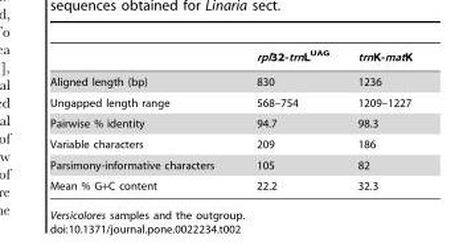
<table><thead><tr><td></td><td>rpl32-trnL<sup>UAG</sup></td><td>trnK-matK</td></tr></thead><tbody><tr><td>Aligned length (bp)</td><td>830</td><td>1236</td></tr><tr><td>Ungapped length range</td><td>568–754</td><td>1209–1227</td></tr><tr><td>Pairwise % identity</td><td>94.7</td><td>98.3</td></tr><tr><td>Variable characters</td><td>209</td><td>186</td></tr><tr><td>Parsimony-informative characters</td><td>105</td><td>82</td></tr><tr><td>Mean % G+C content</td><td>22.2</td><td>32.3</td></tr></tbody></table>